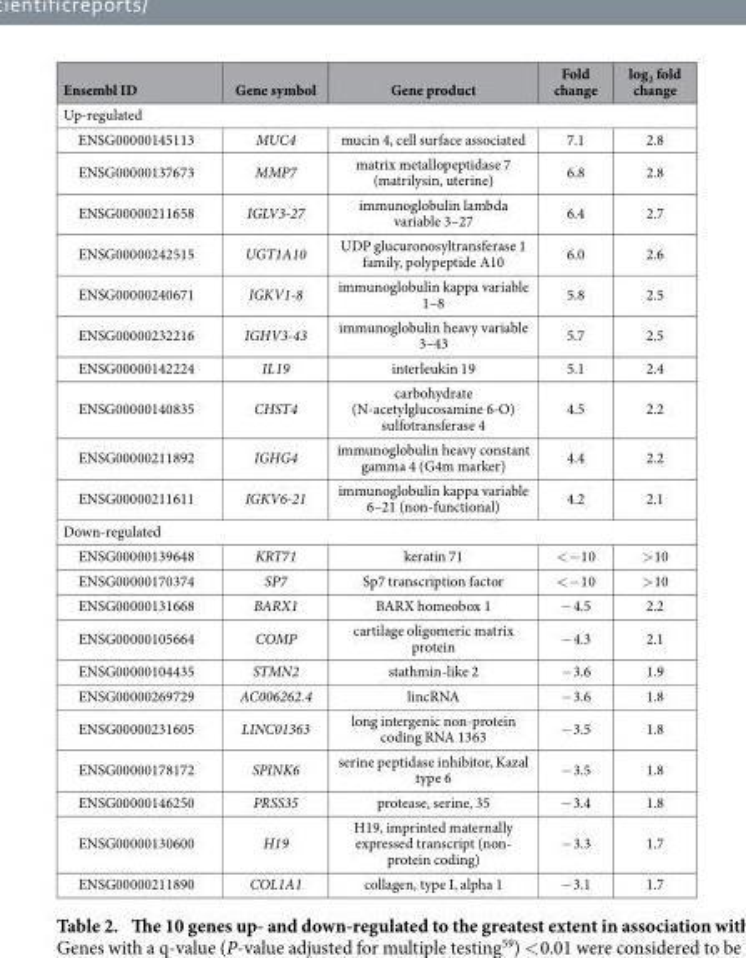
<table><thead><tr><td>Ensembl ID</td><td>Gene symbol</td><td>Gene product</td><td>Fold change</td><td>log<sub>2</sub> fold change</td></tr></thead><tbody><tr><td colspan="5">Up-regulated</td></tr><tr><td>ENSG00000145113</td><td>MUC4</td><td>mucin 4, cell surface associated</td><td>7.1</td><td>2.8</td></tr><tr><td>ENSG00000137673</td><td>MMP7</td><td>matrix metallopeptidase 7 (matrilysin, uterine)</td><td>6.8</td><td>2.8</td></tr><tr><td>ENSG00000211658</td><td>IGLV3-27</td><td>immunoglobulin lambda variable 3–27</td><td>6.4</td><td>2.7</td></tr><tr><td>ENSG00000242515</td><td>UGT1A10</td><td>UDP glucuronosyltransferase 1 family, polypeptide A10</td><td>6.0</td><td>2.6</td></tr><tr><td>ENSG00000240671</td><td>IGKV1-8</td><td>immunoglobulin kappa variable 1–8</td><td>5.8</td><td>2.5</td></tr><tr><td>ENSG00000232216</td><td>IGHV3-43</td><td>immunoglobulin heavy variable 3–43</td><td>5.7</td><td>2.5</td></tr><tr><td>ENSG00000142224</td><td>IL19</td><td>interleukin 19</td><td>5.1</td><td>2.4</td></tr><tr><td>ENSG00000140835</td><td>CHST4</td><td>carbohydrate (N-acetylglucosamine 6-O) sulfotransferase 4</td><td>4.5</td><td>2.2</td></tr><tr><td>ENSG00000211892</td><td>IGHG4</td><td>immunoglobulin heavy constant gamma 4 (G4m marker)</td><td>4.4</td><td>2.2</td></tr><tr><td>ENSG00000211611</td><td>IGKV6-21</td><td>immunoglobulin kappa variable 6–21 (non-functional)</td><td>4.2</td><td>2.1</td></tr><tr><td colspan="5">Down-regulated</td></tr><tr><td>ENSG00000139648</td><td>KRT71</td><td>keratin 71</td><td>&lt; − 10</td><td>&gt; 10</td></tr><tr><td>ENSG00000170374</td><td>SP7</td><td>Sp7 transcription factor</td><td>&lt; − 10</td><td>&gt; 10</td></tr><tr><td>ENSG00000131668</td><td>BARX1</td><td>BARX homeobox 1</td><td>− 4.5</td><td>2.2</td></tr><tr><td>ENSG00000105664</td><td>COMP</td><td>cartilage oligomeric matrix protein</td><td>− 4.3</td><td>2.1</td></tr><tr><td>ENSG00000104435</td><td>STMN2</td><td>stathmin-like 2</td><td>− 3.6</td><td>1.9</td></tr><tr><td>ENSG00000269729</td><td>AC006262.4</td><td>lincRNA</td><td>− 3.6</td><td>1.8</td></tr><tr><td>ENSG00000231605</td><td>LINC01363</td><td>long intergenic non-protein coding RNA 1363</td><td>− 3.5</td><td>1.8</td></tr><tr><td>ENSG00000178172</td><td>SPINK6</td><td>serine peptidase inhibitor, Kazal type 6</td><td>− 3.5</td><td>1.8</td></tr><tr><td>ENSG00000146250</td><td>PRSS35</td><td>protease, serine, 35</td><td>− 3.4</td><td>1.8</td></tr><tr><td>ENSG00000130600</td><td>H19</td><td>H19, imprinted maternally expressed transcript (non- protein coding)</td><td>− 3.3</td><td>1.7</td></tr><tr><td>ENSG00000211890</td><td>COL1A1</td><td>collagen, type I, alpha 1</td><td>− 3.1</td><td>1.7</td></tr></tbody></table>